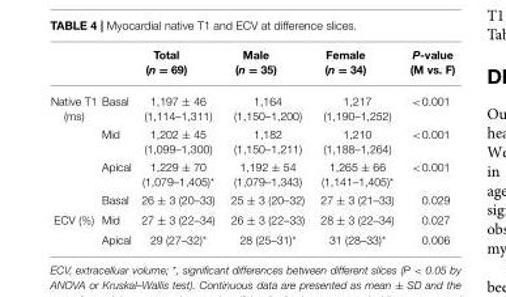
<table><thead><tr><td></td><td></td><td>Total (n = 69)</td><td>Male (n = 35)</td><td>Female (n = 34)</td><td>P-value (M vs. F)</td></tr></thead><tbody><tr><td rowspan="4">Native T1 (ms)</td><td>Basal</td><td>1,197 ± 46 (1,114–1,311)</td><td>1,164 (1,150–1,200)</td><td>1,217 (1,190–1,252)</td><td>&lt;0.001</td></tr><tr><td>Mid</td><td>1,202 ± 45 (1,099–1,300)</td><td>1,182 (1,150–1,211)</td><td>1,210 (1,188–1,264)</td><td>&lt;0.001</td></tr><tr><td>Apical</td><td>1,229 ± 70 (1,079–1,405)*</td><td>1,192 ± 54 (1,079–1,343)</td><td>1,265 ± 66 (1,141–1,405)*</td><td>&lt;0.001</td></tr><tr><td>Basal</td><td>26 ± 3 (20–33)</td><td>25 ± 3 (20–32)</td><td>27 ± 3 (21–33)</td><td>0.029</td></tr><tr><td rowspan="2">ECV (%)</td><td>Mid</td><td>27 ± 3 (22–34)</td><td>26 ± 3 (22–33)</td><td>28 ± 3 (22–34)</td><td>0.027</td></tr><tr><td>Apical</td><td>29 (27–32)*</td><td>28 (25–31)*</td><td>31 (28–33)*</td><td>0.006</td></tr></tbody></table>